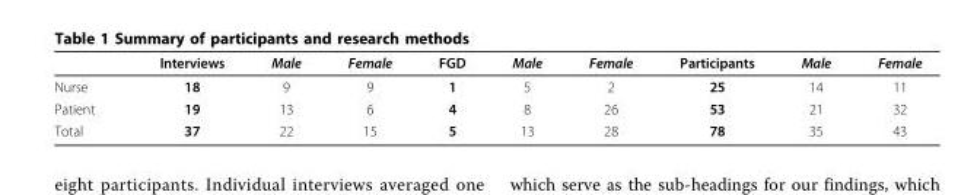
<table><thead><tr><td></td><td>Interviews</td><td>Male</td><td>Female</td><td>FGD</td><td>Male</td><td>Female</td><td>Participants</td><td>Male</td><td>Female</td></tr></thead><tbody><tr><td>Nurse</td><td>18</td><td>9</td><td>9</td><td>1</td><td>5</td><td>2</td><td>25</td><td>14</td><td>11</td></tr><tr><td>Patient</td><td>19</td><td>13</td><td>6</td><td>4</td><td>8</td><td>26</td><td>53</td><td>21</td><td>32</td></tr><tr><td>Total</td><td>37</td><td>22</td><td>15</td><td>5</td><td>13</td><td>28</td><td>78</td><td>35</td><td>43</td></tr></tbody></table>